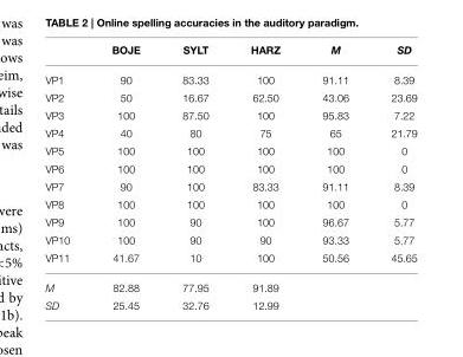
<table><thead><tr><td></td><td>BOJE</td><td>SYLT</td><td>HARZ</td><td>M</td><td>SD</td></tr></thead><tbody><tr><td>VP1</td><td>90</td><td>83.33</td><td>100</td><td>91.11</td><td>8.39</td></tr><tr><td>VP2</td><td>50</td><td>16.67</td><td>62.50</td><td>43.06</td><td>23.69</td></tr><tr><td>VP3</td><td>100</td><td>87.50</td><td>100</td><td>95.83</td><td>7.22</td></tr><tr><td>VP4</td><td>40</td><td>80</td><td>75</td><td>65</td><td>21.79</td></tr><tr><td>VP5</td><td>100</td><td>100</td><td>100</td><td>100</td><td>0</td></tr><tr><td>VP6</td><td>100</td><td>100</td><td>100</td><td>100</td><td>0</td></tr><tr><td>VP7</td><td>90</td><td>100</td><td>83.33</td><td>91.11</td><td>8.39</td></tr><tr><td>VP8</td><td>100</td><td>100</td><td>100</td><td>100</td><td>0</td></tr><tr><td>VP9</td><td>100</td><td>90</td><td>100</td><td>96.67</td><td>5.77</td></tr><tr><td>VP10</td><td>100</td><td>90</td><td>90</td><td>93.33</td><td>5.77</td></tr><tr><td>VP11</td><td>41.67</td><td>10</td><td>100</td><td>50.56</td><td>45.65</td></tr><tr><td>M</td><td>82.88</td><td>77.95</td><td>91.89</td><td></td><td></td></tr><tr><td>SD</td><td>25.45</td><td>32.76</td><td>12.99</td><td></td><td></td></tr></tbody></table>